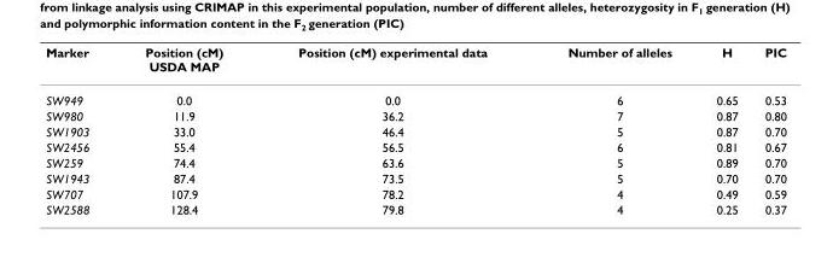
<table><thead><tr><td>Marker</td><td>Position (cM) USDA MAP</td><td>Position (cM) experimental data</td><td>Number of alleles</td><td>H</td><td>PIC</td></tr></thead><tbody><tr><td>SW949</td><td>0.0</td><td>0.0</td><td>6</td><td>0.65</td><td>0.53</td></tr><tr><td>SW980</td><td>11.9</td><td>36.2</td><td>7</td><td>0.87</td><td>0.80</td></tr><tr><td>SW1903</td><td>33.0</td><td>46.4</td><td>5</td><td>0.87</td><td>0.70</td></tr><tr><td>SW2456</td><td>55.4</td><td>56.5</td><td>6</td><td>0.81</td><td>0.67</td></tr><tr><td>SW259</td><td>74.4</td><td>63.6</td><td>5</td><td>0.89</td><td>0.70</td></tr><tr><td>SW1943</td><td>87.4</td><td>73.5</td><td>5</td><td>0.70</td><td>0.70</td></tr><tr><td>SW707</td><td>107.9</td><td>78.2</td><td>4</td><td>0.49</td><td>0.59</td></tr><tr><td>SW2588</td><td>128.4</td><td>79.8</td><td>4</td><td>0.25</td><td>0.37</td></tr></tbody></table>